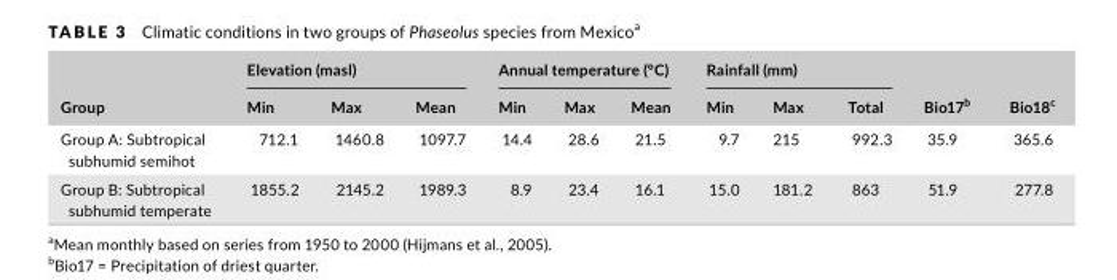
<table><thead><tr><td rowspan="2">Group</td><td colspan="3">Elevation (masl)</td><td colspan="3">Annual temperature (°C)</td><td colspan="3">Rainfall (mm)</td><td rowspan="2">Bio17<sup>b</sup></td><td rowspan="2">Bio18<sup>c</sup></td></tr><tr><td>Min</td><td>Max</td><td>Mean</td><td>Min</td><td>Max</td><td>Mean</td><td>Min</td><td>Max</td><td>Total</td></tr></thead><tbody><tr><td>Group A: Subtropical subhumid semihot</td><td>712.1</td><td>1460.8</td><td>1097.7</td><td>14.4</td><td>28.6</td><td>21.5</td><td>9.7</td><td>215</td><td>992.3</td><td>35.9</td><td>365.6</td></tr><tr><td>Group B: Subtropical subhumid temperate</td><td>1855.2</td><td>2145.2</td><td>1989.3</td><td>8.9</td><td>23.4</td><td>16.1</td><td>15.0</td><td>181.2</td><td>863</td><td>51.9</td><td>277.8</td></tr></tbody></table>